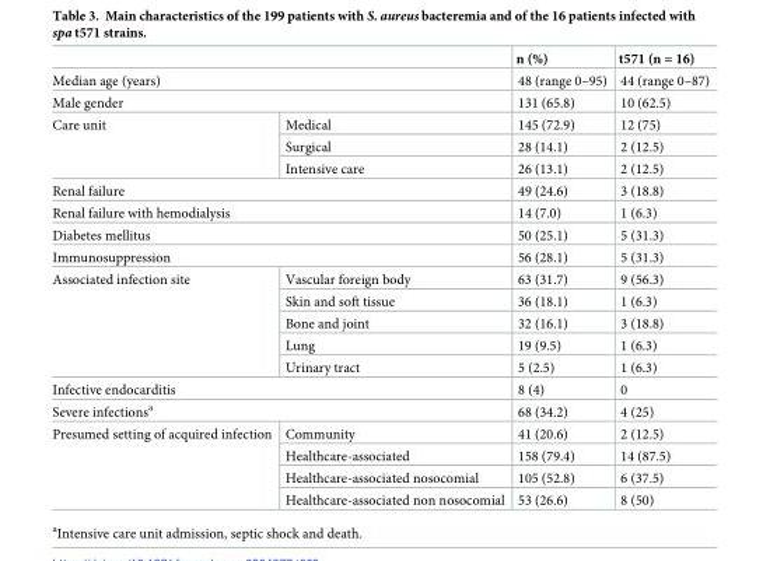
<table><thead><tr><td></td><td></td><td>n (%)</td><td>t571 (n = 16)</td></tr></thead><tbody><tr><td colspan="2">Median age (years)</td><td>48 (range 0–95)</td><td>44 (range 0–87)</td></tr><tr><td colspan="2">Male gender</td><td>131 (65.8)</td><td>10 (62.5)</td></tr><tr><td rowspan="3">Care unit</td><td>Medical</td><td>145 (72.9)</td><td>12 (75)</td></tr><tr><td>Surgical</td><td>28 (14.1)</td><td>2 (12.5)</td></tr><tr><td>Intensive care</td><td>26 (13.1)</td><td>2 (12.5)</td></tr><tr><td colspan="2">Renal failure</td><td>49 (24.6)</td><td>3 (18.8)</td></tr><tr><td colspan="2">Renal failure with hemodialysis</td><td>14 (7.0)</td><td>1 (6.3)</td></tr><tr><td colspan="2">Diabetes mellitus</td><td>50 (25.1)</td><td>5 (31.3)</td></tr><tr><td colspan="2">Immunosuppression</td><td>56 (28.1)</td><td>5 (31.3)</td></tr><tr><td rowspan="5">Associated infection site</td><td>Vascular foreign body</td><td>63 (31.7)</td><td>9 (56.3)</td></tr><tr><td>Skin and soft tissue</td><td>36 (18.1)</td><td>1 (6.3)</td></tr><tr><td>Bone and joint</td><td>32 (16.1)</td><td>3 (18.8)</td></tr><tr><td>Lung</td><td>19 (9.5)</td><td>1 (6.3)</td></tr><tr><td>Urinary tract</td><td>5 (2.5)</td><td>1 (6.3)</td></tr><tr><td colspan="2">Infective endocarditis</td><td>8 (4)</td><td>0</td></tr><tr><td colspan="2">Severe infections<sup>a</sup></td><td>68 (34.2)</td><td>4 (25)</td></tr><tr><td rowspan="4">Presumed setting of acquired infection</td><td>Community</td><td>41 (20.6)</td><td>2 (12.5)</td></tr><tr><td>Healthcare-associated</td><td>158 (79.4)</td><td>14 (87.5)</td></tr><tr><td>Healthcare-associated nosocomial</td><td>105 (52.8)</td><td>6 (37.5)</td></tr><tr><td>Healthcare-associated non nosocomial</td><td>53 (26.6)</td><td>8 (50)</td></tr></tbody></table>